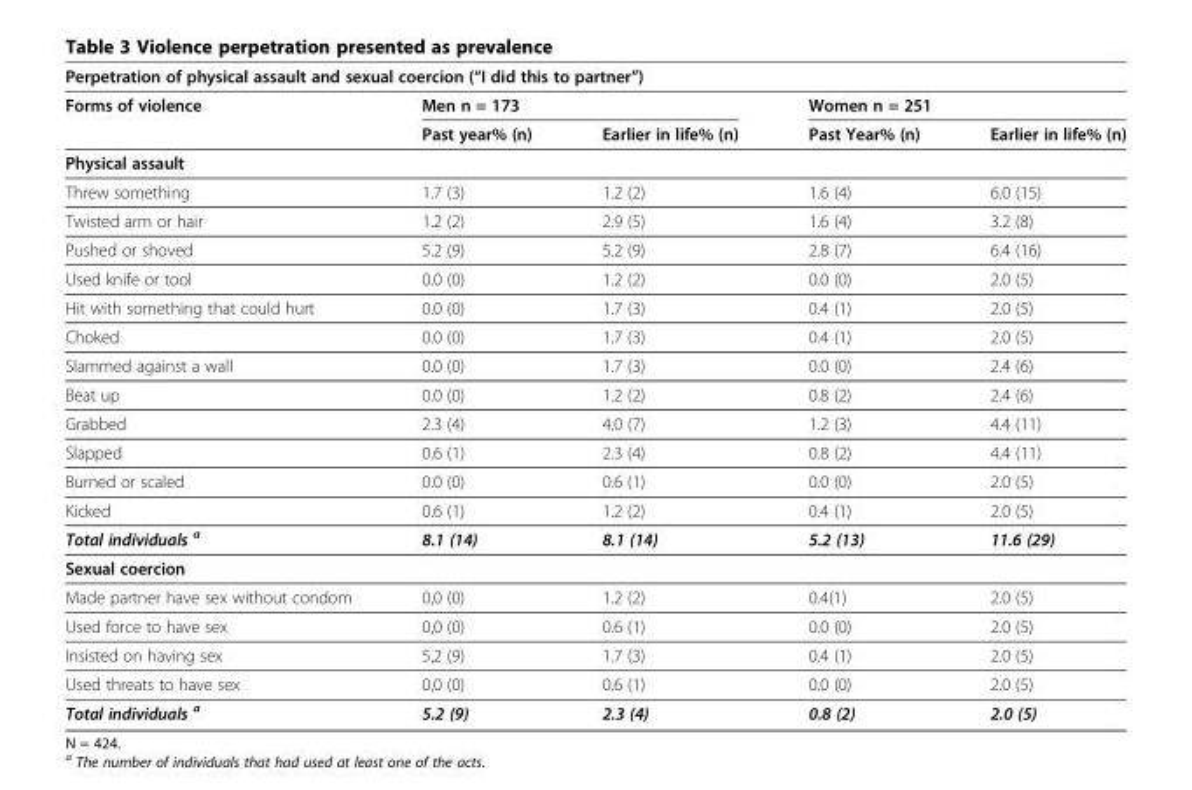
<table><thead><tr><td colspan="5">Perpetration of physical assault and sexual coercion (“I did this to partner”)</td></tr><tr><td rowspan="2">Forms of violence</td><td colspan="2">Men n = 173</td><td colspan="2">Women n = 251</td></tr><tr><td>Past year% (n)</td><td>Earlier in life% (n)</td><td>Past Year% (n)</td><td>Earlier in life% (n)</td></tr></thead><tbody><tr><td colspan="5">Physical assault</td></tr><tr><td>Threw something</td><td>1.7 (3)</td><td>1.2 (2)</td><td>1.6 (4)</td><td>6.0 (15)</td></tr><tr><td>Twisted arm or hair</td><td>1.2 (2)</td><td>2.9 (5)</td><td>1.6 (4)</td><td>3.2 (8)</td></tr><tr><td>Pushed or shoved</td><td>5.2 (9)</td><td>5.2 (9)</td><td>2.8 (7)</td><td>6.4 (16)</td></tr><tr><td>Used knife or tool</td><td>0.0 (0)</td><td>1.2 (2)</td><td>0.0 (0)</td><td>2.0 (5)</td></tr><tr><td>Hit with something that could hurt</td><td>0.0 (0)</td><td>1.7 (3)</td><td>0.4 (1)</td><td>2.0 (5)</td></tr><tr><td>Choked</td><td>0.0 (0)</td><td>1.7 (3)</td><td>0.4 (1)</td><td>2.0 (5)</td></tr><tr><td>Slammed against a wall</td><td>0.0 (0)</td><td>1.7 (3)</td><td>0.0 (0)</td><td>2.4 (6)</td></tr><tr><td>Beat up</td><td>0.0 (0)</td><td>1.2 (2)</td><td>0.8 (2)</td><td>2.4 (6)</td></tr><tr><td>Grabbed</td><td>2.3 (4)</td><td>4.0 (7)</td><td>1.2 (3)</td><td>4.4 (11)</td></tr><tr><td>Slapped</td><td>0.6 (1)</td><td>2.3 (4)</td><td>0.8 (2)</td><td>4.4 (11)</td></tr><tr><td>Burned or scaled</td><td>0.0 (0)</td><td>0.6 (1)</td><td>0.0 (0)</td><td>2.0 (5)</td></tr><tr><td>Kicked</td><td>0.6 (1)</td><td>1.2 (2)</td><td>0.4 (1)</td><td>2.0 (5)</td></tr><tr><td>Total individuals <sup>a</sup></td><td>8.1 (14)</td><td>8.1 (14)</td><td>5.2 (13)</td><td>11.6 (29)</td></tr><tr><td colspan="5">Sexual coercion</td></tr><tr><td>Made partner have sex without condom</td><td>0,0 (0)</td><td>1.2 (2)</td><td>0.4(1)</td><td>2.0 (5)</td></tr><tr><td>Used force to have sex</td><td>0,0 (0)</td><td>0.6 (1)</td><td>0.0 (0)</td><td>2.0 (5)</td></tr><tr><td>Insisted on having sex</td><td>5,2 (9)</td><td>1.7 (3)</td><td>0.4 (1)</td><td>2.0 (5)</td></tr><tr><td>Used threats to have sex</td><td>0,0 (0)</td><td>0.6 (1)</td><td>0.0 (0)</td><td>2.0 (5)</td></tr><tr><td>Total individuals <sup>a</sup></td><td>5.2 (9)</td><td>2.3 (4)</td><td>0.8 (2)</td><td>2.0 (5)</td></tr></tbody></table>